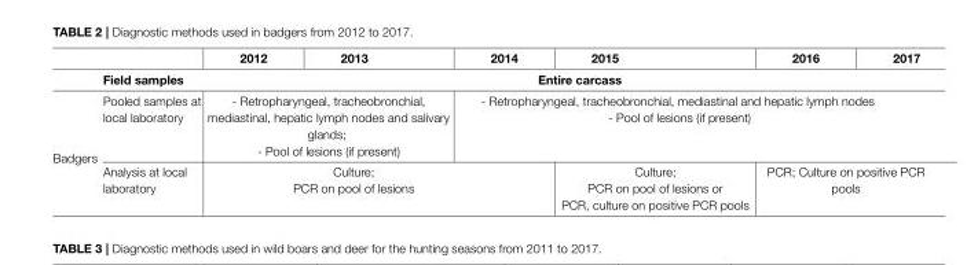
<table><thead><tr><td></td><td></td><td>2012</td><td>2013</td><td>2014</td><td>2015</td><td>2016</td><td>2017</td></tr></thead><tbody><tr><td></td><td>Field samples</td><td colspan="6">Entire carcass</td></tr><tr><td rowspan="2">Badgers</td><td>Pooled samples at local laboratory</td><td colspan="2">- Retropharyngeal, tracheobronchial, mediastinal, hepatic lymph nodes and salivary glands; - Pool of lesions (if present)</td><td colspan="4">- Retropharyngeal, tracheobronchial, mediastinal and hepatic lymph nodes - Pool of lesions (if present)</td></tr><tr><td>Analysis at local laboratory</td><td colspan="3">Culture; PCR on pool of lesions</td><td>Culture; PCR on pool of lesions or PCR, culture on positive PCR pools</td><td colspan="2">PCR; Culture on positive PCR pools</td></tr></tbody></table>